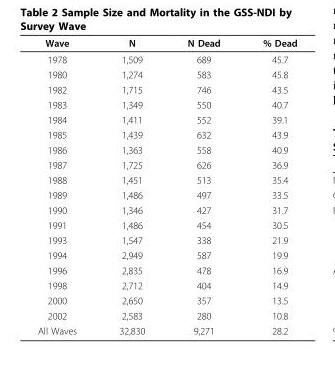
<table><thead><tr><td>Wave</td><td>N</td><td>N Dead</td><td>% Dead</td></tr></thead><tbody><tr><td>1978</td><td>1,509</td><td>689</td><td>45.7</td></tr><tr><td>1980</td><td>1,274</td><td>583</td><td>45.8</td></tr><tr><td>1982</td><td>1,715</td><td>746</td><td>43.5</td></tr><tr><td>1983</td><td>1,349</td><td>550</td><td>40.7</td></tr><tr><td>1984</td><td>1,411</td><td>552</td><td>39.1</td></tr><tr><td>1985</td><td>1,439</td><td>632</td><td>43.9</td></tr><tr><td>1986</td><td>1,363</td><td>558</td><td>40.9</td></tr><tr><td>1987</td><td>1,725</td><td>626</td><td>36.9</td></tr><tr><td>1988</td><td>1,451</td><td>513</td><td>35.4</td></tr><tr><td>1989</td><td>1,486</td><td>497</td><td>33.5</td></tr><tr><td>1990</td><td>1,346</td><td>427</td><td>31.7</td></tr><tr><td>1991</td><td>1,486</td><td>454</td><td>30.5</td></tr><tr><td>1993</td><td>1,547</td><td>338</td><td>21.9</td></tr><tr><td>1994</td><td>2,949</td><td>587</td><td>19.9</td></tr><tr><td>1996</td><td>2,835</td><td>478</td><td>16.9</td></tr><tr><td>1998</td><td>2,712</td><td>404</td><td>14.9</td></tr><tr><td>2000</td><td>2,650</td><td>357</td><td>13.5</td></tr><tr><td>2002</td><td>2,583</td><td>280</td><td>10.8</td></tr><tr><td>All Waves</td><td>32,830</td><td>9,271</td><td>28.2</td></tr></tbody></table>